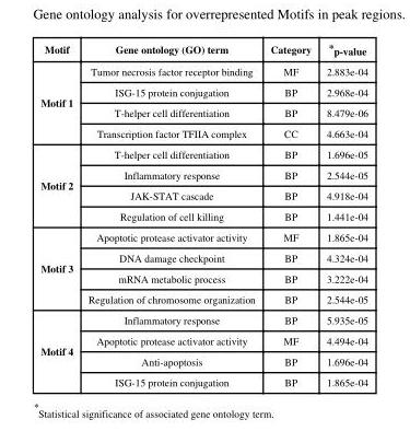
<table><thead><tr><td>Motif</td><td>Gene ontology (GO) term</td><td>Category</td><td>*p-value</td></tr></thead><tbody><tr><td rowspan="4">Motif 1</td><td>Tumor necrosis factor receptor binding</td><td>MF</td><td>2.883e-04</td></tr><tr><td>ISG-15 protein conjugation</td><td>BP</td><td>2.968e-04</td></tr><tr><td>T-helper cell differentiation</td><td>BP</td><td>8.479e-06</td></tr><tr><td>Transcription factor TFIIA complex</td><td>CC</td><td>4.663e-04</td></tr><tr><td rowspan="4">Motif 2</td><td>T-helper cell differentiation</td><td>BP</td><td>1.696e-05</td></tr><tr><td>Inflammatory response</td><td>BP</td><td>2.544e-05</td></tr><tr><td>JAK-STAT cascade</td><td>BP</td><td>4.918e-04</td></tr><tr><td>Regulation of cell killing</td><td>BP</td><td>1.441e-04</td></tr><tr><td rowspan="4">Motif 3</td><td>Apoptotic protease activator activity</td><td>MF</td><td>1.865e-04</td></tr><tr><td>DNA damage checkpoint</td><td>BP</td><td>4.324e-04</td></tr><tr><td>mRNA metabolic process</td><td>BP</td><td>3.222e-04</td></tr><tr><td>Regulation of chromosome organization</td><td>BP</td><td>2.544e-05</td></tr><tr><td rowspan="4">Motif 4</td><td>Inflammatory response</td><td>BP</td><td>5.935e-05</td></tr><tr><td>Apoptotic protease activator activity</td><td>MF</td><td>4.494e-04</td></tr><tr><td>Anti-apoptosis</td><td>BP</td><td>1.696e-04</td></tr><tr><td>ISG-15 protein conjugation</td><td>BP</td><td>1.865e-04</td></tr></tbody></table>